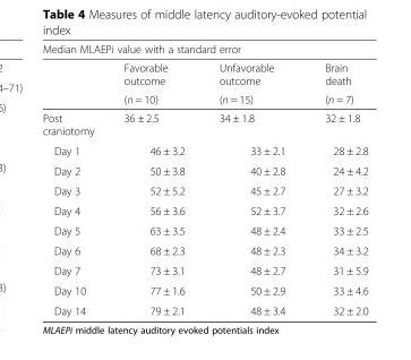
<table><thead><tr><td colspan="4">Median MLAEPi value with a standard error</td></tr><tr><td rowspan="2"></td><td rowspan="2">Favorable outcome (n = 10)</td><td rowspan="2">Unfavorable outcome (n = 15)</td><td rowspan="2">Brain death (n = 7)</td></tr><tr></tr></thead><tbody><tr><td>Post craniotomy</td><td>36 ± 2.5</td><td>34 ± 1.8</td><td>32 ± 1.8</td></tr><tr><td>Day 1</td><td>46 ± 3.2</td><td>33 ± 2.1</td><td>28 ± 2.8</td></tr><tr><td>Day 2</td><td>50 ± 3.8</td><td>40 ± 2.8</td><td>24 ± 4.2</td></tr><tr><td>Day 3</td><td>52 ± 5.2</td><td>45 ± 2.7</td><td>27 ± 3.2</td></tr><tr><td>Day 4</td><td>56 ± 3.6</td><td>52 ± 3.7</td><td>32 ± 2.6</td></tr><tr><td>Day 5</td><td>63 ± 3.5</td><td>48 ± 2.4</td><td>33 ± 2.5</td></tr><tr><td>Day 6</td><td>68 ± 2.3</td><td>48 ± 2.3</td><td>34 ± 3.2</td></tr><tr><td>Day 7</td><td>73 ± 3.1</td><td>48 ± 2.7</td><td>31 ± 5.9</td></tr><tr><td>Day 10</td><td>77 ± 1.6</td><td>50 ± 2.9</td><td>33 ± 4.6</td></tr><tr><td>Day 14</td><td>79 ± 2.1</td><td>48 ± 3.4</td><td>32 ± 2.0</td></tr></tbody></table>